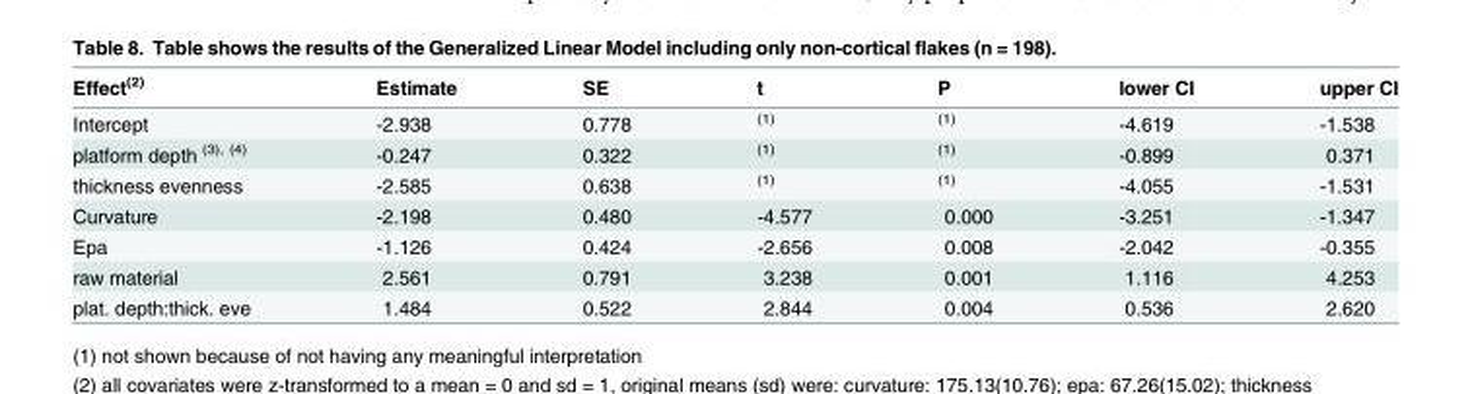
<table><thead><tr><td>Effect<sup>(2)</sup></td><td>Estimate</td><td>SE</td><td>t</td><td>P</td><td>lower CI</td><td>upper CI</td></tr></thead><tbody><tr><td>Intercept</td><td>-2.938</td><td>0.778</td><td><sup>(1)</sup></td><td><sup>(1)</sup></td><td>-4.619</td><td>-1.538</td></tr><tr><td>platform depth <sup>(3), (4)</sup></td><td>-0.247</td><td>0.322</td><td><sup>(1)</sup></td><td><sup>(1)</sup></td><td>-0.899</td><td>0.371</td></tr><tr><td>thickness evenness</td><td>-2.585</td><td>0.638</td><td><sup>(1)</sup></td><td><sup>(1)</sup></td><td>-4.055</td><td>-1.531</td></tr><tr><td>Curvature</td><td>-2.198</td><td>0.480</td><td>-4.577</td><td>0.000</td><td>-3.251</td><td>-1.347</td></tr><tr><td>Epa</td><td>-1.126</td><td>0.424</td><td>-2.656</td><td>0.008</td><td>-2.042</td><td>-0.355</td></tr><tr><td>raw material</td><td>2.561</td><td>0.791</td><td>3.238</td><td>0.001</td><td>1.116</td><td>4.253</td></tr><tr><td>plat. depth:thick. eve</td><td>1.484</td><td>0.522</td><td>2.844</td><td>0.004</td><td>0.536</td><td>2.620</td></tr></tbody></table>